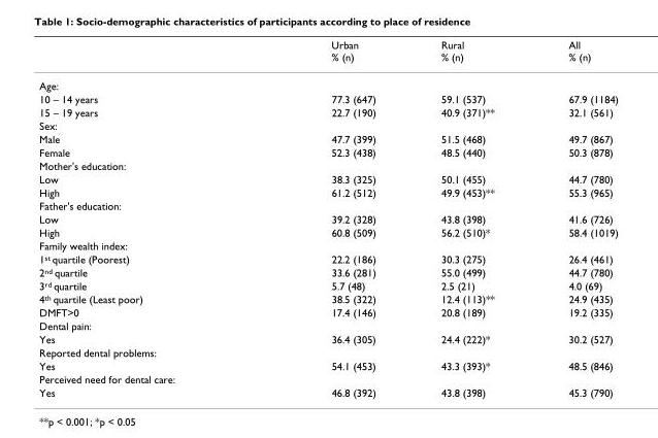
<table><thead><tr><td></td><td>Urban % (n)</td><td>Rural % (n)</td><td>All % (n)</td></tr></thead><tbody><tr><td colspan="4">Age:</td></tr><tr><td>10 – 14 years</td><td>77.3 (647)</td><td>59.1 (537)</td><td>67.9 (1184)</td></tr><tr><td>15 – 19 years</td><td>22.7 (190)</td><td>40.9 (371)**</td><td>32.1 (561)</td></tr><tr><td colspan="4">Sex:</td></tr><tr><td>Male</td><td>47.7 (399)</td><td>51.5 (468)</td><td>49.7 (867)</td></tr><tr><td>Female</td><td>52.3 (438)</td><td>48.5 (440)</td><td>50.3 (878)</td></tr><tr><td colspan="4">Mother&#x27;s education:</td></tr><tr><td>Low</td><td>38.3 (325)</td><td>50.1 (455)</td><td>44.7 (780)</td></tr><tr><td>High</td><td>61.2 (512)</td><td>49.9 (453)**</td><td>55.3 (965)</td></tr><tr><td colspan="4">Father&#x27;s education:</td></tr><tr><td>Low</td><td>39.2 (328)</td><td>43.8 (398)</td><td>41.6 (726)</td></tr><tr><td>High</td><td>60.8 (509)</td><td>56.2 (510)*</td><td>58.4 (1019)</td></tr><tr><td colspan="4">Family wealth index:</td></tr><tr><td>1<sup>st</sup> quartile (Poorest)</td><td>22.2 (186)</td><td>30.3 (275)</td><td>26.4 (461)</td></tr><tr><td>2<sup>nd</sup> quartile</td><td>33.6 (281)</td><td>55.0 (499)</td><td>44.7 (780)</td></tr><tr><td>3<sup>rd</sup> quartile</td><td>5.7 (48)</td><td>2.5 (21)</td><td>4.0 (69)</td></tr><tr><td>4<sup>th</sup> quartile (Least poor)</td><td>38.5 (322)</td><td>12.4 (113)**</td><td>24.9 (435)</td></tr><tr><td>DMFT&gt;0</td><td>17.4 (146)</td><td>20.8 (189)</td><td>19.2 (335)</td></tr><tr><td colspan="4">Dental pain:</td></tr><tr><td>Yes</td><td>36.4 (305)</td><td>24.4 (222)*</td><td>30.2 (527)</td></tr><tr><td colspan="4">Reported dental problems:</td></tr><tr><td>Yes</td><td>54.1 (453)</td><td>43.3 (393)*</td><td>48.5 (846)</td></tr><tr><td colspan="4">Perceived need for dental care:</td></tr><tr><td>Yes</td><td>46.8 (392)</td><td>43.8 (398)</td><td>45.3 (790)</td></tr></tbody></table>